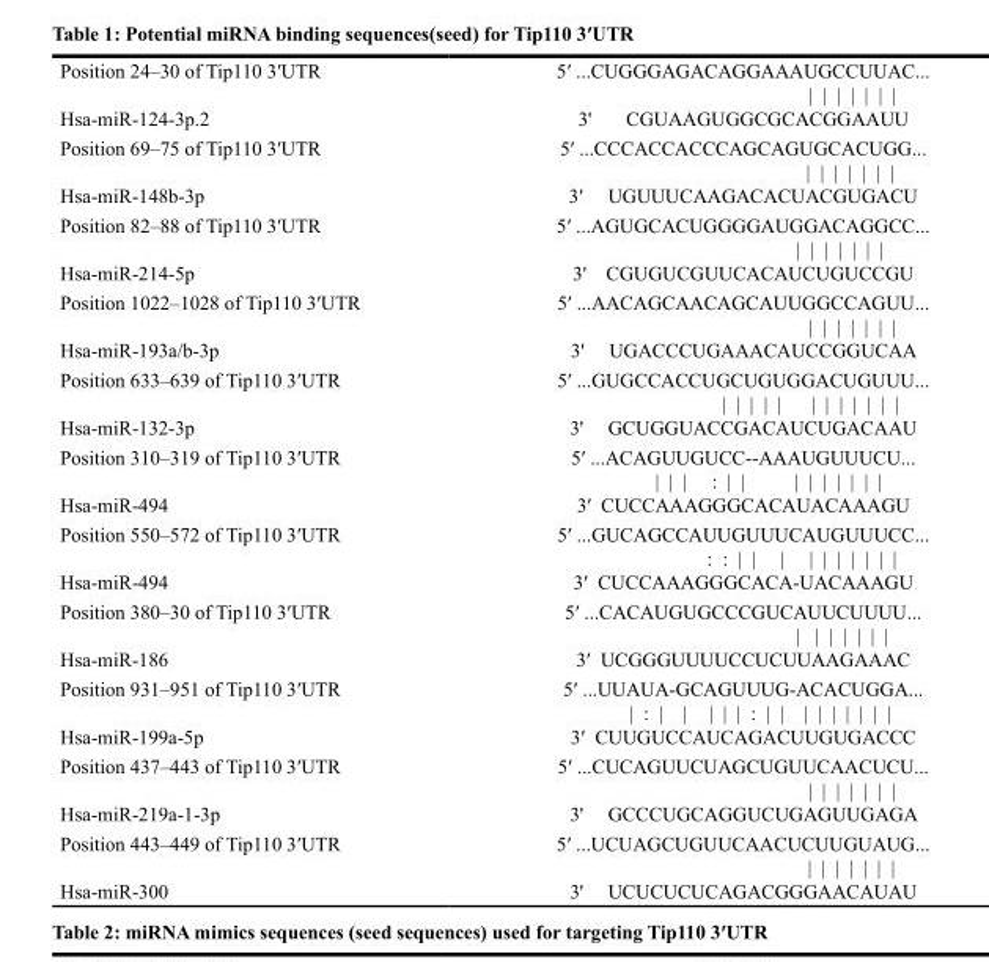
<table><tbody><tr><td>Position 24–30 of Tip110 3′UTR Hsa-miR-124-3p.2</td><td>5′ ...CUGGGAGACAGGAAAUGCCUUAC... | | | | | | | 3&#x27; CGUAAGUGGCGCACGGAAUU</td></tr><tr><td>Position 69–75 of Tip110 3′UTR Hsa-miR-148b-3p</td><td>5′ ...CCCACCACCCAGCAGUGCACUGG... | | | | | | | 3′ UGUUUCAAGACACUACGUGACU</td></tr><tr><td>Position 82–88 of Tip110 3′UTR Hsa-miR-214-5p</td><td>5′ ...AGUGCACUGGGGAUGGACAGGCC... | | | | | | | 3&#x27; CGUGUCGUUCACAUCUGUCCGU</td></tr><tr><td>Position 1022–1028 of Tip110 3′UTR Hsa-miR-193a/b-3p</td><td>5′ ...AACAGCAACAGCAUUGGCCAGUU... | | | | | | | 3&#x27; UGACCCUGAAACAUCCGGUCAA</td></tr><tr><td>Position 633–639 of Tip110 3′UTR Hsa-miR-132-3p</td><td>5′ ...GUGCCACCUGCUGUGGACUGUUU... | | | | | | | | | | | | 3&#x27; GCUGGUACCGACAUCUGACAAU</td></tr><tr><td>Position 310–319 of Tip110 3′UTR Hsa-miR-494</td><td>5′ ...ACAGUUGUCC--AAAUGUUUCU... | | | : | | | | | | | | | 3′ CUCCAAAGGGCACAUACAAAGU</td></tr><tr><td>Position 550–572 of Tip110 3′UTR Hsa-miR-494</td><td>5′ ...GUCAGCCAUUGUUUCAUGUUUCC... : : | | | | | | | | | | 3′ CUCCAAAGGGCACA-UACAAAGU</td></tr><tr><td>Position 380–30 of Tip110 3′UTR Hsa-miR-186</td><td>5′ ...CACAUGUGCCCGUCAUUCUUUU... | | | | | | | 3′ UCGGGUUUUCCUCUUAAGAAAC</td></tr><tr><td>Position 931–951 of Tip110 3′UTR Hsa-miR-199a-5p</td><td>5′ ...UUAUA-GCAGUUUG-ACACUGGA... | : | | | | | : | | | | | | | | | 3′ CUUGUCCAUCAGACUUGUGACCC</td></tr><tr><td>Position 437–443 of Tip110 3′UTR Hsa-miR-219a-1-3p</td><td>5′ ...CUCAGUUCUAGCUGUUCAACUCU... | | | | | | | 3&#x27; GCCCUGCAGGUCUGAGUUGAGA</td></tr><tr><td>Position 443–449 of Tip110 3′UTR Hsa-miR-300</td><td>5′ ...UCUAGCUGUUCAACUCUUGUAUG... | | | | | | | 3&#x27; UCUCUCUCAGACGGGAACAUAU</td></tr></tbody></table>